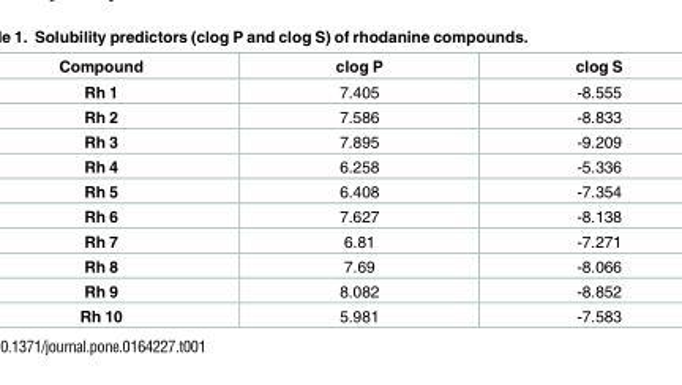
<table><thead><tr><td>Compound</td><td>clog P</td><td>clog S</td></tr></thead><tbody><tr><td>Rh 1</td><td>7.405</td><td>-8.555</td></tr><tr><td>Rh 2</td><td>7.586</td><td>-8.833</td></tr><tr><td>Rh 3</td><td>7.895</td><td>-9.209</td></tr><tr><td>Rh 4</td><td>6.258</td><td>-5.336</td></tr><tr><td>Rh 5</td><td>6.408</td><td>-7.354</td></tr><tr><td>Rh 6</td><td>7.627</td><td>-8.138</td></tr><tr><td>Rh 7</td><td>6.81</td><td>-7.271</td></tr><tr><td>Rh 8</td><td>7.69</td><td>-8.066</td></tr><tr><td>Rh 9</td><td>8.082</td><td>-8.852</td></tr><tr><td>Rh 10</td><td>5.981</td><td>-7.583</td></tr></tbody></table>